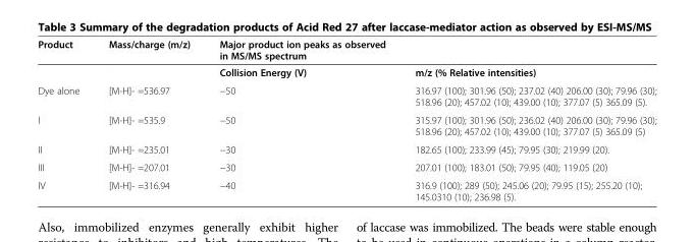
<table><thead><tr><td>Product</td><td>Mass/charge (m/z)</td><td>Major product ion peaks as observed in MS/MS spectrum</td><td></td></tr></thead><tbody><tr><td></td><td></td><td>Collision Energy (V)</td><td>m/z (% Relative intensities)</td></tr><tr><td>Dye alone</td><td>[M-H]- =536.97</td><td>−50</td><td>316.97 (100); 301.96 (50); 237.02 (40) 206.00 (30); 79.96 (30); 518.96 (20); 457.02 (10); 439.00 (10); 377.07 (5) 365.09 (5).</td></tr><tr><td>I</td><td>[M-H]- =535.9</td><td>−50</td><td>315.97 (100); 301.96 (50); 236.02 (40) 206.00 (30); 79.96 (30); 518.96 (20); 457.02 (10); 439.00 (10); 377.07 (5) 365.09 (5)</td></tr><tr><td>II</td><td>[M-H]- =235.01</td><td>−30</td><td>182.65 (100); 233.99 (45); 79.95 (30); 219.99 (20).</td></tr><tr><td>III</td><td>[M-H]- =207.01</td><td>−30</td><td>207.01 (100); 183.01 (50); 79.95 (40); 119.05 (20)</td></tr><tr><td>IV</td><td>[M-H]- =316.94</td><td>−40</td><td>316.9 (100); 289 (50); 245.06 (20); 79.95 (15); 255.20 (10); 145.0310 (10); 236.98 (5).</td></tr></tbody></table>